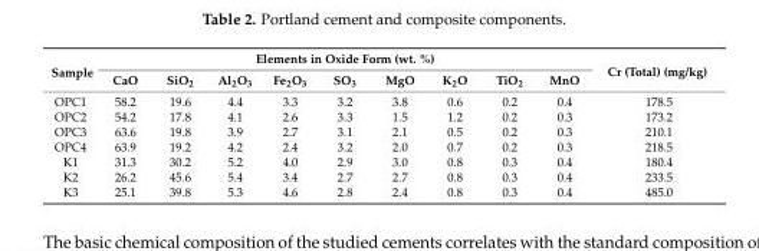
<table><thead><tr><td rowspan="2">Sample</td><td colspan="9">Elements in Oxide Form (wt. %)</td><td rowspan="2">Cr (Total) (mg/kg)</td></tr><tr><td>CaO</td><td>SiO<sub>2</sub></td><td>Al<sub>2</sub>O<sub>3</sub></td><td>Fe<sub>2</sub>O<sub>3</sub></td><td>SO<sub>3</sub></td><td>MgO</td><td>K<sub>2</sub>O</td><td>TiO<sub>2</sub></td><td>MnO</td></tr></thead><tbody><tr><td>OPC1</td><td>58.2</td><td>19.6</td><td>4.4</td><td>3.3</td><td>3.2</td><td>3.8</td><td>0.6</td><td>0.2</td><td>0.4</td><td>178.5</td></tr><tr><td>OPC2</td><td>54.2</td><td>17.8</td><td>4.1</td><td>2.6</td><td>3.3</td><td>1.5</td><td>1.2</td><td>0.2</td><td>0.3</td><td>173.2</td></tr><tr><td>OPC3</td><td>63.6</td><td>19.8</td><td>3.9</td><td>2.7</td><td>3.1</td><td>2.1</td><td>0.5</td><td>0.2</td><td>0.3</td><td>210.1</td></tr><tr><td>OPC4</td><td>63.9</td><td>19.2</td><td>4.2</td><td>2.4</td><td>3.2</td><td>2.0</td><td>0.7</td><td>0.2</td><td>0.3</td><td>218.5</td></tr><tr><td>K1</td><td>31.3</td><td>30.2</td><td>5.2</td><td>4.0</td><td>2.9</td><td>3.0</td><td>0.8</td><td>0.3</td><td>0.4</td><td>180.4</td></tr><tr><td>K2</td><td>26.2</td><td>45.6</td><td>5.4</td><td>3.4</td><td>2.7</td><td>2.7</td><td>0.8</td><td>0.3</td><td>0.4</td><td>233.5</td></tr><tr><td>K3</td><td>25.1</td><td>39.8</td><td>5.3</td><td>4.6</td><td>2.8</td><td>2.4</td><td>0.8</td><td>0.3</td><td>0.4</td><td>485.0</td></tr></tbody></table>